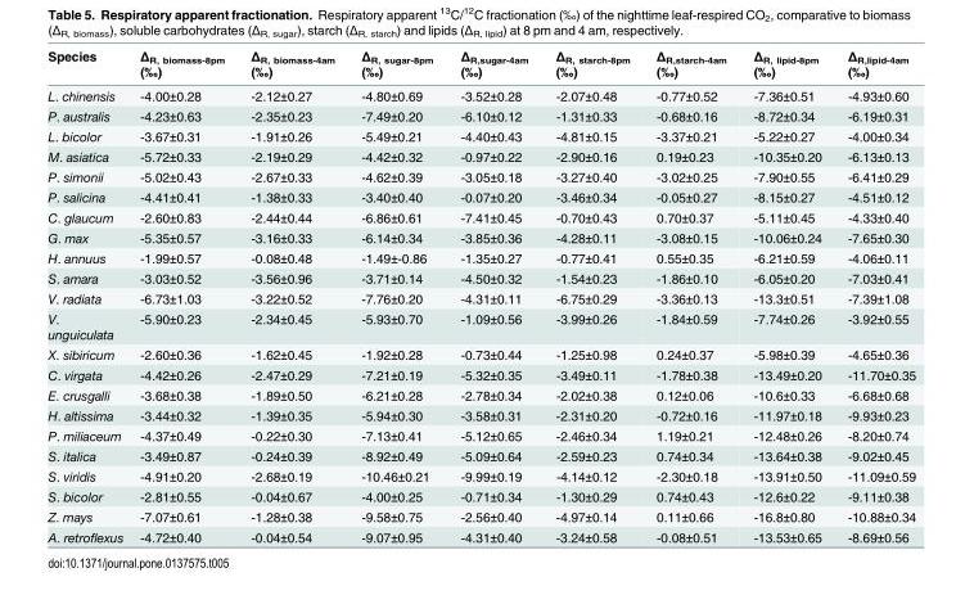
<table><thead><tr><td>Species</td><td>Δ<sub>R, biomass-8pm</sub> (‰)</td><td>Δ<sub>R, biomass-4am</sub> (‰)</td><td>Δ<sub>R, sugar-8pm</sub> (‰)</td><td>Δ<sub>R,sugar-4am</sub> (‰)</td><td>Δ<sub>R, starch-8pm</sub> (‰)</td><td>Δ<sub>R,starch-4am</sub> (‰)</td><td>Δ<sub>R, lipid-8pm</sub> (‰)</td><td>Δ<sub>R,lipid-4am</sub> (‰)</td></tr></thead><tbody><tr><td>L. chinensis</td><td>-4.00±0.28</td><td>-2.12±0.27</td><td>-4.80±0.69</td><td>-3.52±0.28</td><td>-2.07±0.48</td><td>-0.77±0.52</td><td>-7.36±0.51</td><td>-4.93±0.60</td></tr><tr><td>P. australis</td><td>-4.23±0.63</td><td>-2.35±0.23</td><td>-7.49±0.20</td><td>-6.10±0.12</td><td>-1.31±0.33</td><td>-0.68±0.16</td><td>-8.72±0.34</td><td>-6.19±0.31</td></tr><tr><td>L. bicolor</td><td>-3.67±0.31</td><td>-1.91±0.26</td><td>-5.49±0.21</td><td>-4.40±0.43</td><td>-4.81±0.15</td><td>-3.37±0.21</td><td>-5.22±0.27</td><td>-4.00±0.34</td></tr><tr><td>M. asiatica</td><td>-5.72±0.33</td><td>-2.19±0.29</td><td>-4.42±0.32</td><td>-0.97±0.22</td><td>-2.90±0.16</td><td>0.19±0.23</td><td>-10.35±0.20</td><td>-6.13±0.13</td></tr><tr><td>P. simonii</td><td>-5.02±0.43</td><td>-2.67±0.33</td><td>-4.62±0.39</td><td>-3.05±0.18</td><td>-3.27±0.40</td><td>-3.02±0.25</td><td>-7.90±0.55</td><td>-6.41±0.29</td></tr><tr><td>P. salicina</td><td>-4.41±0.41</td><td>-1.38±0.33</td><td>-3.40±0.40</td><td>-0.07±0.20</td><td>-3.46±0.34</td><td>-0.05±0.27</td><td>-8.15±0.27</td><td>-4.51±0.12</td></tr><tr><td>C. glaucum</td><td>-2.60±0.83</td><td>-2.44±0.44</td><td>-6.86±0.61</td><td>-7.41±0.45</td><td>-0.70±0.43</td><td>0.70±0.37</td><td>-5.11±0.45</td><td>-4.33±0.40</td></tr><tr><td>G. max</td><td>-5.35±0.57</td><td>-3.16±0.33</td><td>-6.14±0.34</td><td>-3.85±0.36</td><td>-4.28±0.11</td><td>-3.08±0.15</td><td>-10.06±0.24</td><td>-7.65±0.30</td></tr><tr><td>H. annuus</td><td>-1.99±0.57</td><td>-0.08±0.48</td><td>-1.49±-0.86</td><td>-1.35±0.27</td><td>-0.77±0.41</td><td>0.55±0.35</td><td>-6.21±0.59</td><td>-4.06±0.11</td></tr><tr><td>S. amara</td><td>-3.03±0.52</td><td>-3.56±0.96</td><td>-3.71±0.14</td><td>-4.50±0.32</td><td>-1.54±0.23</td><td>-1.86±0.10</td><td>-6.05±0.20</td><td>-7.03±0.41</td></tr><tr><td>V. radiata</td><td>-6.73±1.03</td><td>-3.22±0.52</td><td>-7.76±0.20</td><td>-4.31±0.11</td><td>-6.75±0.29</td><td>-3.36±0.13</td><td>-13.3±0.51</td><td>-7.39±1.08</td></tr><tr><td>V. unguiculata</td><td>-5.90±0.23</td><td>-2.34±0.45</td><td>-5.93±0.70</td><td>-1.09±0.56</td><td>-3.99±0.26</td><td>-1.84±0.59</td><td>-7.74±0.26</td><td>-3.92±0.55</td></tr><tr><td>X. sibiricum</td><td>-2.60±0.36</td><td>-1.62±0.45</td><td>-1.92±0.28</td><td>-0.73±0.44</td><td>-1.25±0.98</td><td>0.24±0.37</td><td>-5.98±0.39</td><td>-4.65±0.36</td></tr><tr><td>C. virgata</td><td>-4.42±0.26</td><td>-2.47±0.29</td><td>-7.21±0.19</td><td>-5.32±0.35</td><td>-3.49±0.11</td><td>-1.78±0.38</td><td>-13.49±0.20</td><td>-11.70±0.35</td></tr><tr><td>E. crusgalli</td><td>-3.68±0.38</td><td>-1.89±0.50</td><td>-6.21±0.28</td><td>-2.78±0.34</td><td>-2.02±0.38</td><td>0.12±0.06</td><td>-10.6±0.33</td><td>-6.68±0.68</td></tr><tr><td>H. altissima</td><td>-3.44±0.32</td><td>-1.39±0.35</td><td>-5.94±0.30</td><td>-3.58±0.31</td><td>-2.31±0.20</td><td>-0.72±0.16</td><td>-11.97±0.18</td><td>-9.93±0.23</td></tr><tr><td>P. miliaceum</td><td>-4.37±0.49</td><td>-0.22±0.30</td><td>-7.13±0.41</td><td>-5.12±0.65</td><td>-2.46±0.34</td><td>1.19±0.21</td><td>-12.48±0.26</td><td>-8.20±0.74</td></tr><tr><td>S. italica</td><td>-3.49±0.87</td><td>-0.24±0.39</td><td>-8.92±0.49</td><td>-5.09±0.64</td><td>-2.59±0.23</td><td>0.74±0.34</td><td>-13.64±0.38</td><td>-9.02±0.45</td></tr><tr><td>S. viridis</td><td>-4.91±0.20</td><td>-2.68±0.19</td><td>-10.46±0.21</td><td>-9.99±0.19</td><td>-4.14±0.12</td><td>-2.30±0.18</td><td>-13.91±0.50</td><td>-11.09±0.59</td></tr><tr><td>S. bicolor</td><td>-2.81±0.55</td><td>-0.04±0.67</td><td>-4.00±0.25</td><td>-0.71±0.34</td><td>-1.30±0.29</td><td>0.74±0.43</td><td>-12.6±0.22</td><td>-9.11±0.38</td></tr><tr><td>Z. mays</td><td>-7.07±0.61</td><td>-1.28±0.38</td><td>-9.58±0.75</td><td>-2.56±0.40</td><td>-4.97±0.14</td><td>0.11±0.66</td><td>-16.8±0.80</td><td>-10.88±0.34</td></tr><tr><td>A. retroflexus</td><td>-4.72±0.40</td><td>-0.04±0.54</td><td>-9.07±0.95</td><td>-4.31±0.40</td><td>-3.24±0.58</td><td>-0.08±0.51</td><td>-13.53±0.65</td><td>-8.69±0.56</td></tr></tbody></table>